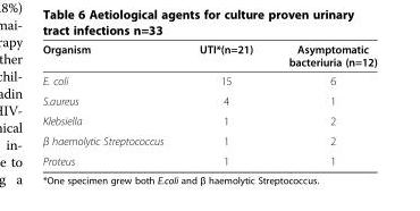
<table><thead><tr><td>Organism</td><td>UTI*(n=21)</td><td>Asymptomatic bacteriuria (n=12)</td></tr></thead><tbody><tr><td>E. coli</td><td>15</td><td>6</td></tr><tr><td>S.aureus</td><td>4</td><td>1</td></tr><tr><td>Klebsiella</td><td>1</td><td>2</td></tr><tr><td>β haemolytic Streptococcus</td><td>1</td><td>2</td></tr><tr><td>Proteus</td><td>1</td><td>1</td></tr></tbody></table>